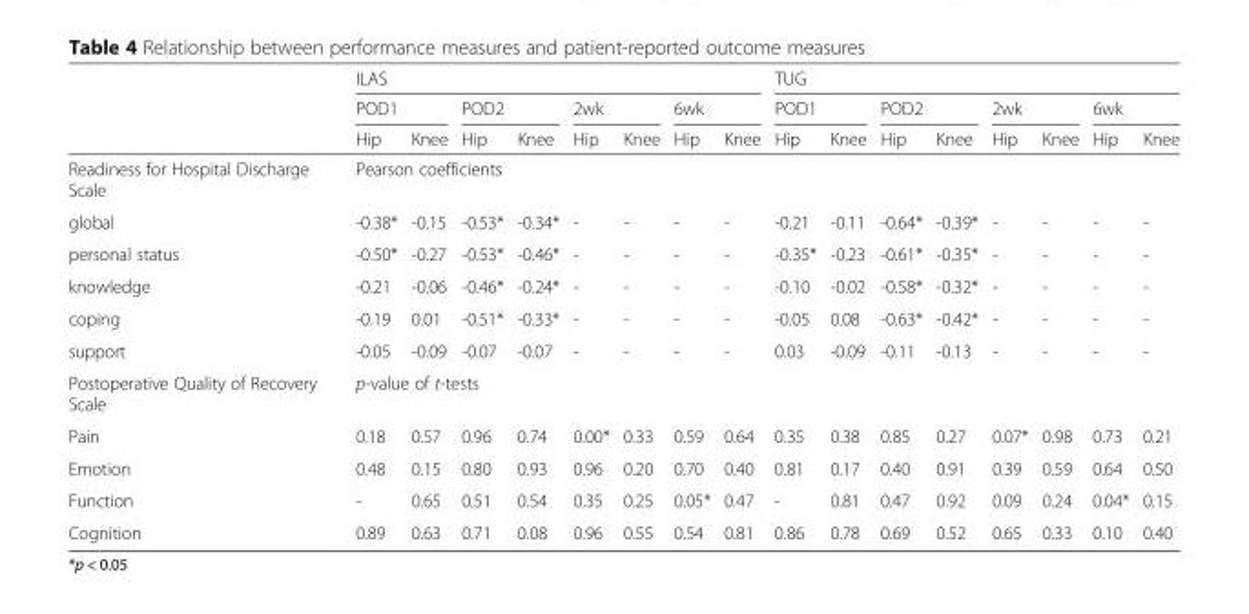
<table><thead><tr><td rowspan="3"></td><td colspan="8">ILAS</td><td colspan="8">TUG</td></tr><tr><td colspan="2">POD1</td><td colspan="2">POD2</td><td colspan="2">2wk</td><td colspan="2">6wk</td><td colspan="2">POD1</td><td colspan="2">POD2</td><td colspan="2">2wk</td><td colspan="2">6wk</td></tr><tr><td>Hip</td><td>Knee</td><td>Hip</td><td>Knee</td><td>Hip</td><td>Knee</td><td>Hip</td><td>Knee</td><td>Hip</td><td>Knee</td><td>Hip</td><td>Knee</td><td>Hip</td><td>Knee</td><td>Hip</td><td>Knee</td></tr></thead><tbody><tr><td>Readiness for Hospital Discharge Scale</td><td colspan="16">Pearson coefficients</td></tr><tr><td>global</td><td>-0.38*</td><td>-0.15</td><td>-0.53*</td><td>-0.34*</td><td>-</td><td>-</td><td>-</td><td>-</td><td>-0.21</td><td>-0.11</td><td>-0.64*</td><td>-0.39*</td><td>-</td><td>-</td><td>-</td><td>-</td></tr><tr><td>personal status</td><td>-0.50*</td><td>-0.27</td><td>-0.53*</td><td>-0.46*</td><td>-</td><td>-</td><td>-</td><td>-</td><td>-0.35*</td><td>-0.23</td><td>-0.61*</td><td>-0.35*</td><td>-</td><td>-</td><td>-</td><td>-</td></tr><tr><td>knowledge</td><td>-0.21</td><td>-0.06</td><td>-0.46*</td><td>-0.24*</td><td>-</td><td>-</td><td>-</td><td>-</td><td>-0.10</td><td>-0.02</td><td>-0.58*</td><td>-0.32*</td><td>-</td><td>-</td><td>-</td><td>-</td></tr><tr><td>coping</td><td>-0.19</td><td>0.01</td><td>-0.51*</td><td>-0.33*</td><td>-</td><td>-</td><td>-</td><td>-</td><td>-0.05</td><td>0.08</td><td>-0.63*</td><td>-0.42*</td><td>-</td><td>-</td><td>-</td><td>-</td></tr><tr><td>support</td><td>-0.05</td><td>-0.09</td><td>-0.07</td><td>-0.07</td><td>-</td><td>-</td><td>-</td><td>-</td><td>0.03</td><td>-0.09</td><td>-0.11</td><td>-0.13</td><td>-</td><td>-</td><td>-</td><td>-</td></tr><tr><td>Postoperative Quality of Recovery Scale</td><td colspan="16">p-value of t-tests</td></tr><tr><td>Pain</td><td>0.18</td><td>0.57</td><td>0.96</td><td>0.74</td><td>0.00*</td><td>0.33</td><td>0.59</td><td>0.64</td><td>0.35</td><td>0.38</td><td>0.85</td><td>0.27</td><td>0.07*</td><td>0.98</td><td>0.73</td><td>0.21</td></tr><tr><td>Emotion</td><td>0.48</td><td>0.15</td><td>0.80</td><td>0.93</td><td>0.96</td><td>0.20</td><td>0.70</td><td>0.40</td><td>0.81</td><td>0.17</td><td>0.40</td><td>0.91</td><td>0.39</td><td>0.59</td><td>0.64</td><td>0.50</td></tr><tr><td>Function</td><td>-</td><td>0.65</td><td>0.51</td><td>0.54</td><td>0.35</td><td>0.25</td><td>0.05*</td><td>0.47</td><td>-</td><td>0.81</td><td>0.47</td><td>0.92</td><td>0.09</td><td>0.24</td><td>0.04*</td><td>0.15</td></tr><tr><td>Cognition</td><td>0.89</td><td>0.63</td><td>0.71</td><td>0.08</td><td>0.96</td><td>0.55</td><td>0.54</td><td>0.81</td><td>0.86</td><td>0.78</td><td>0.69</td><td>0.52</td><td>0.65</td><td>0.33</td><td>0.10</td><td>0.40</td></tr></tbody></table>